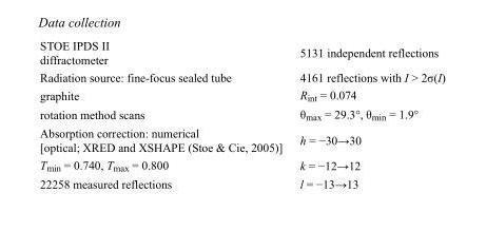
<table><tbody><tr><td>STOE IPDS II diffractometer</td><td>5131 independent reflections</td></tr><tr><td>Radiation source: fine-focus sealed tube</td><td>4161 reflections with I &gt; 2σ(I)</td></tr><tr><td>graphite</td><td>R<sub>int</sub> = 0.074</td></tr><tr><td>rotation method scans</td><td>θ<sub>max</sub> = 29.3°, θ<sub>min</sub> = 1.9°</td></tr><tr><td>Absorption correction: numerical [optical; XRED and XSHAPE (Stoe &amp; Cie, 2005)]</td><td>h = −30→30</td></tr><tr><td>T<sub>min</sub> = 0.740, T<sub>max</sub> = 0.800</td><td>k = −12→12</td></tr><tr><td>22258 measured reflections</td><td>l = −13→13</td></tr></tbody></table>